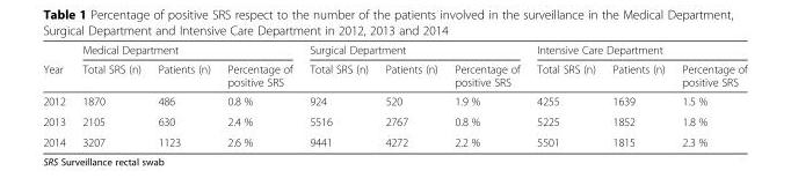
<table><thead><tr><td rowspan="2">Year</td><td colspan="3">Medical Department</td><td colspan="3">Surgical Department</td><td colspan="3">Intensive Care Department</td></tr><tr><td>Total SRS (n)</td><td>Patients (n)</td><td>Percentage of positive SRS</td><td>Total SRS (n)</td><td>Patients (n)</td><td>Percentage of positive SRS</td><td>Total SRS (n)</td><td>Patients (n)</td><td>Percentage of positive SRS</td></tr></thead><tbody><tr><td>2012</td><td>1870</td><td>486</td><td>0.8 %</td><td>924</td><td>520</td><td>1.9 %</td><td>4255</td><td>1639</td><td>1.5 %</td></tr><tr><td>2013</td><td>2105</td><td>630</td><td>2.4 %</td><td>5516</td><td>2767</td><td>0.8 %</td><td>5225</td><td>1852</td><td>1.8 %</td></tr><tr><td>2014</td><td>3207</td><td>1123</td><td>2.6 %</td><td>9441</td><td>4272</td><td>2.2 %</td><td>5501</td><td>1815</td><td>2.3 %</td></tr></tbody></table>